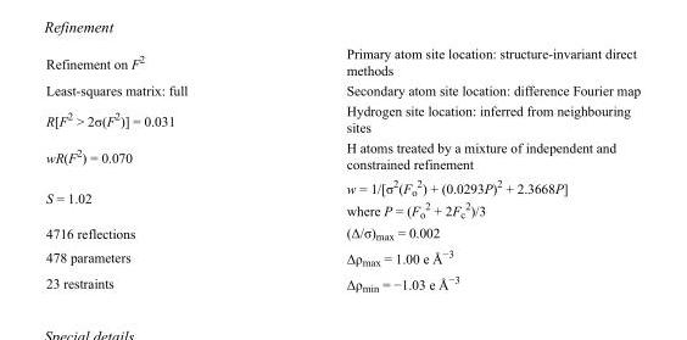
<table><tbody><tr><td>Refinement on F<sup>2</sup></td><td>Primary atom site location: structure-invariant direct methods</td></tr><tr><td>Least-squares matrix: full</td><td>Secondary atom site location: difference Fourier map</td></tr><tr><td>R[F<sup>2</sup> &gt; 2σ(F<sup>2</sup>)] = 0.031</td><td>Hydrogen site location: inferred from neighbouring sites</td></tr><tr><td>wR(F<sup>2</sup>) = 0.070</td><td>H atoms treated by a mixture of independent and constrained refinement</td></tr><tr><td>S = 1.02</td><td>w = 1/[σ<sup>2</sup>(F<sub>o</sub> <sup>2</sup>) + (0.0293P)<sup>2</sup> + 2.3668P] where P = (F<sub>o</sub> <sup>2</sup> + 2F<sub>c</sub> <sup>2</sup>)/3</td></tr><tr><td>4716 reflections</td><td>(Δ/σ)<sub>max</sub> = 0.002</td></tr><tr><td>478 parameters</td><td>Δρ<sub>max</sub> = 1.00 e Å<sup>−3</sup></td></tr><tr><td>23 restraints</td><td>Δρ<sub>min</sub> = −1.03 e Å<sup>−3</sup></td></tr></tbody></table>